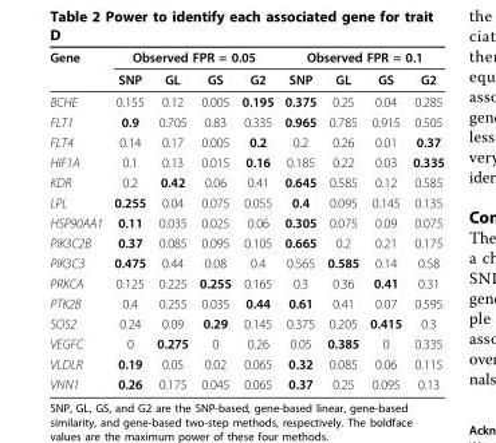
<table><thead><tr><td rowspan="2">Gene</td><td colspan="4">Observed FPR = 0.05</td><td colspan="4">Observed FPR = 0.1</td></tr><tr><td>SNP</td><td>GL</td><td>GS</td><td>G2</td><td>SNP</td><td>GL</td><td>GS</td><td>G2</td></tr></thead><tbody><tr><td>BCHE</td><td>0.155</td><td>0.12</td><td>0.005</td><td>0.195</td><td>0.375</td><td>0.25</td><td>0.04</td><td>0.285</td></tr><tr><td>FLT1</td><td>0.9</td><td>0.705</td><td>0.83</td><td>0.335</td><td>0.965</td><td>0.785</td><td>0.915</td><td>0.505</td></tr><tr><td>FLT4</td><td>0.14</td><td>0.17</td><td>0.005</td><td>0.2</td><td>0.2</td><td>0.26</td><td>0.01</td><td>0.37</td></tr><tr><td>HIF1A</td><td>0.1</td><td>0.13</td><td>0.015</td><td>0.16</td><td>0.185</td><td>0.22</td><td>0.03</td><td>0.335</td></tr><tr><td>KDR</td><td>0.2</td><td>0.42</td><td>0.06</td><td>0.41</td><td>0.645</td><td>0.585</td><td>0.12</td><td>0.585</td></tr><tr><td>LPL</td><td>0.255</td><td>0.04</td><td>0.075</td><td>0.055</td><td>0.4</td><td>0.095</td><td>0.145</td><td>0.135</td></tr><tr><td>HSP90AA1</td><td>0.11</td><td>0.035</td><td>0.025</td><td>0.06</td><td>0.305</td><td>0.075</td><td>0.09</td><td>0.075</td></tr><tr><td>PIK3C2B</td><td>0.37</td><td>0.085</td><td>0.095</td><td>0.105</td><td>0.665</td><td>0.2</td><td>0.21</td><td>0.175</td></tr><tr><td>PIK3C3</td><td>0.475</td><td>0.44</td><td>0.08</td><td>0.4</td><td>0.565</td><td>0.585</td><td>0.14</td><td>0.58</td></tr><tr><td>PRKCA</td><td>0.125</td><td>0.225</td><td>0.255</td><td>0.165</td><td>0.3</td><td>0.36</td><td>0.41</td><td>0.31</td></tr><tr><td>PTK2B</td><td>0.4</td><td>0.255</td><td>0.035</td><td>0.44</td><td>0.61</td><td>0.41</td><td>0.07</td><td>0.595</td></tr><tr><td>SOS2</td><td>0.24</td><td>0.09</td><td>0.29</td><td>0.145</td><td>0.375</td><td>0.205</td><td>0.415</td><td>0.3</td></tr><tr><td>VEGFC</td><td>0</td><td>0.275</td><td>0</td><td>0.26</td><td>0.05</td><td>0.385</td><td>0</td><td>0.335</td></tr><tr><td>VLDLR</td><td>0.19</td><td>0.05</td><td>0.02</td><td>0.065</td><td>0.32</td><td>0.085</td><td>0.06</td><td>0.115</td></tr><tr><td>VNN1</td><td>0.26</td><td>0.175</td><td>0.045</td><td>0.065</td><td>0.37</td><td>0.25</td><td>0.095</td><td>0.13</td></tr></tbody></table>